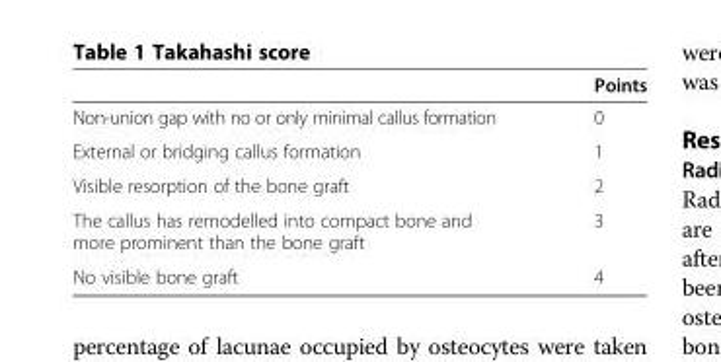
<table><thead><tr><td></td><td>Points</td></tr></thead><tbody><tr><td>Non-union gap with no or only minimal callus formation</td><td>0</td></tr><tr><td>External or bridging callus formation</td><td>1</td></tr><tr><td>Visible resorption of the bone graft</td><td>2</td></tr><tr><td>The callus has remodelled into compact bone and more prominent than the bone graft</td><td>3</td></tr><tr><td>No visible bone graft</td><td>4</td></tr></tbody></table>